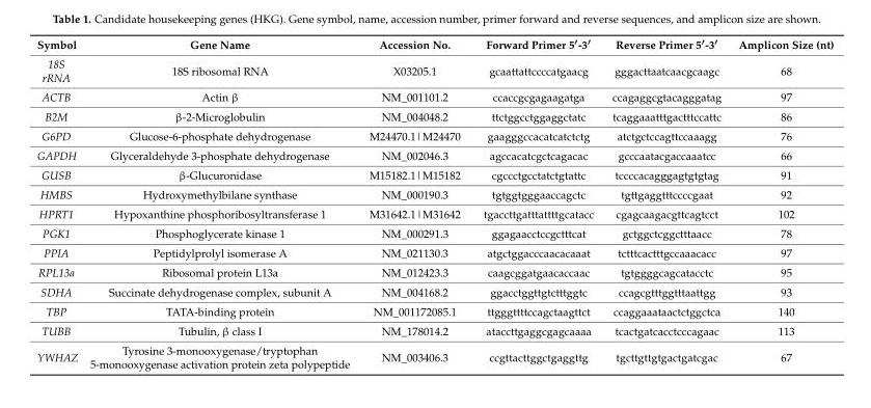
<table><thead><tr><td>Symbol</td><td>Gene Name</td><td>Accession No.</td><td>Forward Primer 5′-3′</td><td>Reverse Primer 5′-3′</td><td>Amplicon Size (nt)</td></tr></thead><tbody><tr><td>18S rRNA</td><td>18S ribosomal RNA</td><td>X03205.1</td><td>gcaattattccccatgaacg</td><td>gggacttaatcaacgcaagc</td><td>68</td></tr><tr><td>ACTB</td><td>Actin β</td><td>NM_001101.2</td><td>ccaccgcgagaagatga</td><td>ccagaggcgtacagggatag</td><td>97</td></tr><tr><td>B2M</td><td>β-2-Microglobulin</td><td>NM_004048.2</td><td>ttctggcctggaggctatc</td><td>tcaggaaatttgactttccattc</td><td>86</td></tr><tr><td>G6PD</td><td>Glucose-6-phosphate dehydrogenase</td><td>M24470.1|M24470</td><td>gaagggccacatcatctctg</td><td>atctgctccagttccaaagg</td><td>76</td></tr><tr><td>GAPDH</td><td>Glyceraldehyde 3-phosphate dehydrogenase</td><td>NM_002046.3</td><td>agccacatcgctcagacac</td><td>gcccaatacgaccaaatcc</td><td>66</td></tr><tr><td>GUSB</td><td>β-Glucuronidase</td><td>M15182.1|M15182</td><td>cgccctgcctatctgtattc</td><td>tccccacagggagtgtgtag</td><td>91</td></tr><tr><td>HMBS</td><td>Hydroxymethylbilane synthase</td><td>NM_000190.3</td><td>tgtggtgggaaccagctc</td><td>tgttgaggtttccccgaat</td><td>92</td></tr><tr><td>HPRT1</td><td>Hypoxanthine phosphoribosyltransferase 1</td><td>M31642.1|M31642</td><td>tgaccttgatttattttgcatacc</td><td>cgagcaagacgttcagtcct</td><td>102</td></tr><tr><td>PGK1</td><td>Phosphoglycerate kinase 1</td><td>NM_000291.3</td><td>ggagaacctccgctttcat</td><td>gctggctcggctttaacc</td><td>78</td></tr><tr><td>PPIA</td><td>Peptidylprolyl isomerase A</td><td>NM_021130.3</td><td>atgctggacccaacacaaat</td><td>tctttcactttgccaaacacc</td><td>97</td></tr><tr><td>RPL13a</td><td>Ribosomal protein L13a</td><td>NM_012423.3</td><td>caagcggatgaacaccaac</td><td>tgtggggcagcatacctc</td><td>95</td></tr><tr><td>SDHA</td><td>Succinate dehydrogenase complex, subunit A</td><td>NM_004168.2</td><td>ggacctggttgtctttggtc</td><td>ccagcgtttggtttaattgg</td><td>93</td></tr><tr><td>TBP</td><td>TATA-binding protein</td><td>NM_001172085.1</td><td>ttgggttttccagctaagttct</td><td>ccaggaaataactctggctca</td><td>140</td></tr><tr><td>TUBB</td><td>Tubulin, β class I</td><td>NM_178014.2</td><td>ataccttgaggcgagcaaaa</td><td>tcactgatcacctcccagaac</td><td>113</td></tr><tr><td>YWHAZ</td><td>Tyrosine 3-monooxygenase/tryptophan 5-monooxygenase activation protein zeta polypeptide</td><td>NM_003406.3</td><td>ccgttacttggctgaggttg</td><td>tgcttgttgtgactgatcgac</td><td>67</td></tr></tbody></table>